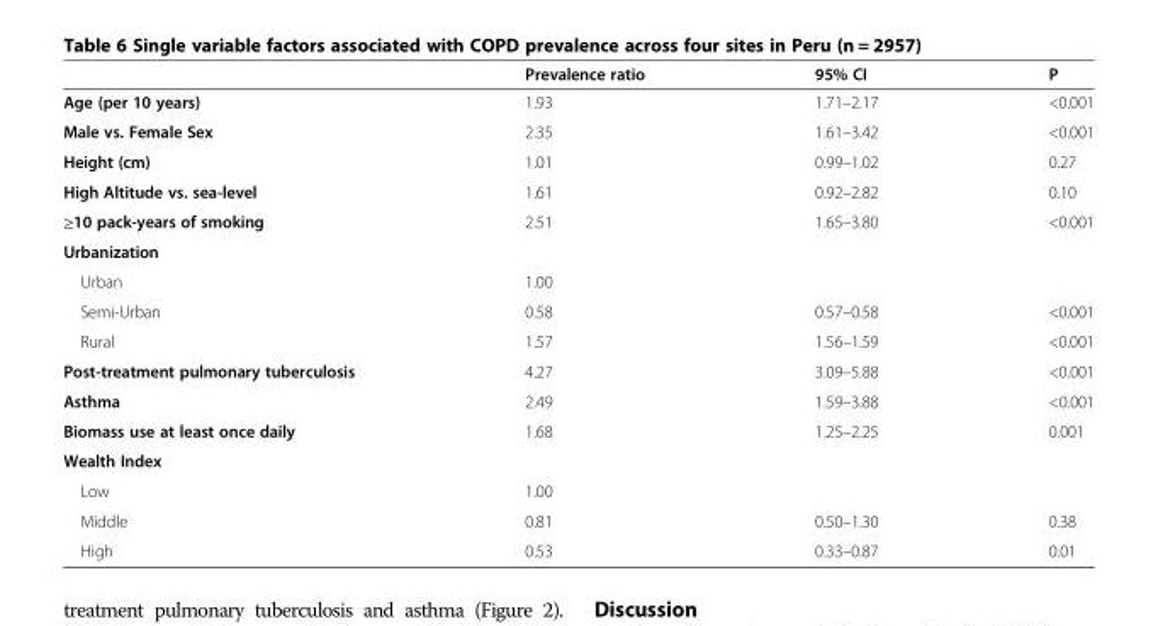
<table><thead><tr><td></td><td>Prevalence ratio</td><td>95% CI</td><td>P</td></tr></thead><tbody><tr><td>Age (per 10 years)</td><td>1.93</td><td>1.71–2.17</td><td>&lt;0.001</td></tr><tr><td>Male vs. Female Sex</td><td>2.35</td><td>1.61–3.42</td><td>&lt;0.001</td></tr><tr><td>Height (cm)</td><td>1.01</td><td>0.99–1.02</td><td>0.27</td></tr><tr><td>High Altitude vs. sea-level</td><td>1.61</td><td>0.92–2.82</td><td>0.10</td></tr><tr><td>≥10 pack-years of smoking</td><td>2.51</td><td>1.65–3.80</td><td>&lt;0.001</td></tr><tr><td colspan="4">Urbanization</td></tr><tr><td>Urban</td><td>1.00</td><td></td><td></td></tr><tr><td>Semi-Urban</td><td>0.58</td><td>0.57–0.58</td><td>&lt;0.001</td></tr><tr><td>Rural</td><td>1.57</td><td>1.56–1.59</td><td>&lt;0.001</td></tr><tr><td>Post-treatment pulmonary tuberculosis</td><td>4.27</td><td>3.09–5.88</td><td>&lt;0.001</td></tr><tr><td>Asthma</td><td>2.49</td><td>1.59–3.88</td><td>&lt;0.001</td></tr><tr><td>Biomass use at least once daily</td><td>1.68</td><td>1.25–2.25</td><td>0.001</td></tr><tr><td colspan="4">Wealth Index</td></tr><tr><td>Low</td><td>1.00</td><td></td><td></td></tr><tr><td>Middle</td><td>0.81</td><td>0.50–1.30</td><td>0.38</td></tr><tr><td>High</td><td>0.53</td><td>0.33–0.87</td><td>0.01</td></tr></tbody></table>